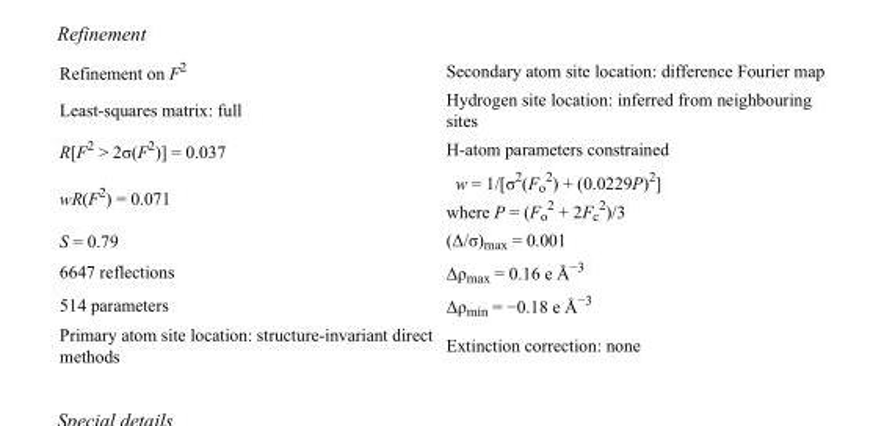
<table><tbody><tr><td>Refinement on F<sup>2</sup></td><td>Secondary atom site location: difference Fourier map</td></tr><tr><td>Least-squares matrix: full</td><td>Hydrogen site location: inferred from neighbouring sites</td></tr><tr><td>R[F<sup>2</sup> &gt; 2σ(F<sup>2</sup>)] = 0.037</td><td>H-atom parameters constrained</td></tr><tr><td>wR(F<sup>2</sup>) = 0.071</td><td>w = 1/[σ<sup>2</sup>(F<sub>o</sub> <sup>2</sup>) + (0.0229P)<sup>2</sup>] where P = (F<sub>o</sub> <sup>2</sup> + 2F<sub>c</sub> <sup>2</sup>)/3</td></tr><tr><td>S = 0.79</td><td>(Δ/σ)<sub>max</sub> = 0.001</td></tr><tr><td>6647 reflections</td><td>Δρ<sub>max</sub> = 0.16 e Å<sup>−3</sup></td></tr><tr><td>514 parameters</td><td>Δρ<sub>min</sub> = −0.18 e Å<sup>−3</sup></td></tr><tr><td>Primary atom site location: structure-invariant direct methods</td><td>Extinction correction: none</td></tr></tbody></table>